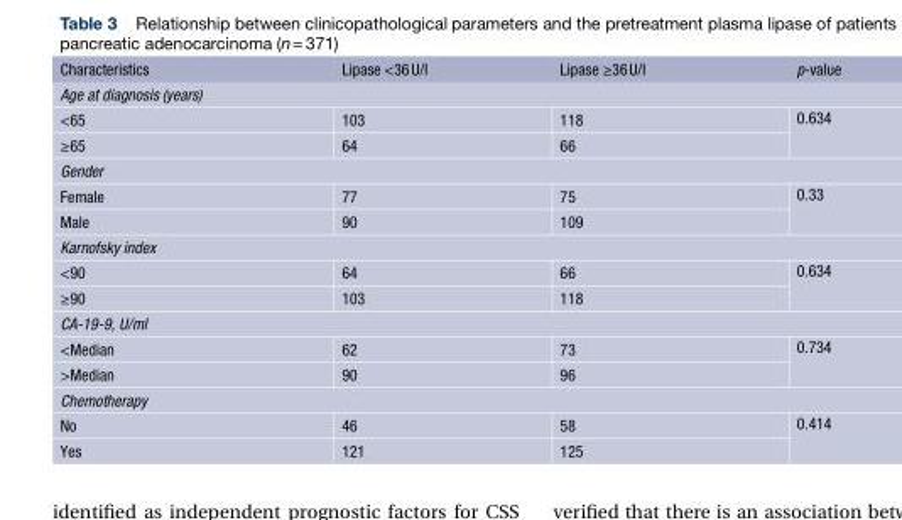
<table><thead><tr><td>Characteristics</td><td>Lipase &lt;36U/l</td><td>Lipase ≥36U/l</td><td>p-value</td></tr></thead><tbody><tr><td colspan="4">Age at diagnosis (years)</td></tr><tr><td>&lt;65</td><td>103</td><td>118</td><td rowspan="2">0.634</td></tr><tr><td>≥65</td><td>64</td><td>66</td></tr><tr><td colspan="4">Gender</td></tr><tr><td>Female</td><td>77</td><td>75</td><td rowspan="2">0.33</td></tr><tr><td>Male</td><td>90</td><td>109</td></tr><tr><td colspan="4">Karnofsky index</td></tr><tr><td>&lt;90</td><td>64</td><td>66</td><td rowspan="2">0.634</td></tr><tr><td>≥90</td><td>103</td><td>118</td></tr><tr><td colspan="4">CA-19-9, U/ml</td></tr><tr><td>&lt;Median</td><td>62</td><td>73</td><td rowspan="2">0.734</td></tr><tr><td>&gt;Median</td><td>90</td><td>96</td></tr><tr><td colspan="4">Chemotherapy</td></tr><tr><td>No</td><td>46</td><td>58</td><td rowspan="2">0.414</td></tr><tr><td>Yes</td><td>121</td><td>125</td></tr></tbody></table>